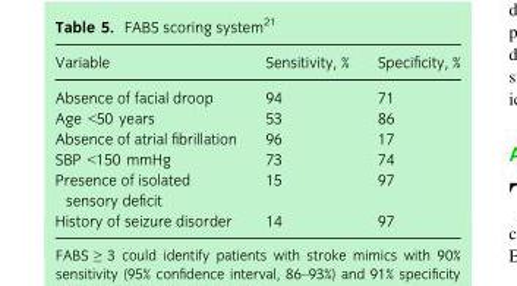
<table><thead><tr><td>Variable</td><td>Sensitivity, %</td><td>Specificity, %</td></tr></thead><tbody><tr><td>Absence of facial droop</td><td>94</td><td>71</td></tr><tr><td>Age &lt;50 years</td><td>53</td><td>86</td></tr><tr><td>Absence of atrial fibrillation</td><td>96</td><td>17</td></tr><tr><td>SBP &lt;150 mmHg</td><td>73</td><td>74</td></tr><tr><td>Presence of isolated sensory deficit</td><td>15</td><td>97</td></tr><tr><td>History of seizure disorder</td><td>14</td><td>97</td></tr></tbody></table>